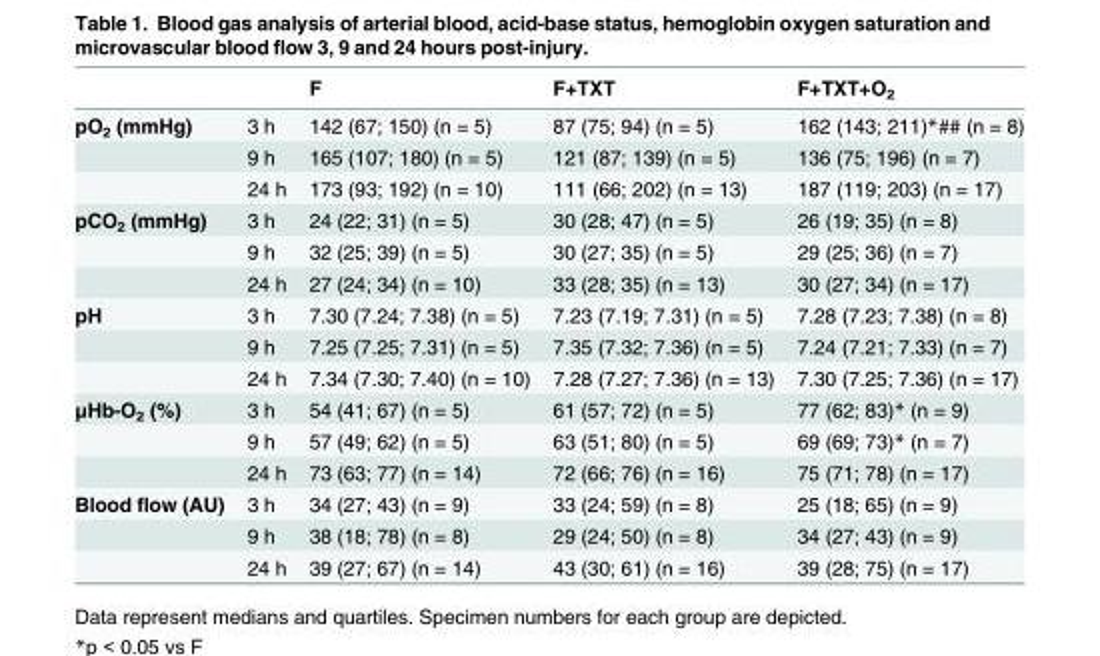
<table><thead><tr><td></td><td></td><td>F</td><td>F+TXT</td><td>F+TXT+O<sub>2</sub></td></tr></thead><tbody><tr><td rowspan="3">pO<sub>2</sub> (mmHg)</td><td>3 h</td><td>142 (67; 150) (n = 5)</td><td>87 (75; 94) (n = 5)</td><td>162 (143; 211)*## (n = 8)</td></tr><tr><td>9 h</td><td>165 (107; 180) (n = 5)</td><td>121 (87; 139) (n = 5)</td><td>136 (75; 196) (n = 7)</td></tr><tr><td>24 h</td><td>173 (93; 192) (n = 10)</td><td>111 (66; 202) (n = 13)</td><td>187 (119; 203) (n = 17)</td></tr><tr><td rowspan="3">pCO<sub>2</sub> (mmHg)</td><td>3 h</td><td>24 (22; 31) (n = 5)</td><td>30 (28; 47) (n = 5)</td><td>26 (19; 35) (n = 8)</td></tr><tr><td>9 h</td><td>32 (25; 39) (n = 5)</td><td>30 (27; 35) (n = 5)</td><td>29 (25; 36) (n = 7)</td></tr><tr><td>24 h</td><td>27 (24; 34) (n = 10)</td><td>33 (28; 35) (n = 13)</td><td>30 (27; 34) (n = 17)</td></tr><tr><td rowspan="3">pH</td><td>3 h</td><td>7.30 (7.24; 7.38) (n = 5)</td><td>7.23 (7.19; 7.31) (n = 5)</td><td>7.28 (7.23; 7.38) (n = 8)</td></tr><tr><td>9 h</td><td>7.25 (7.25; 7.31) (n = 5)</td><td>7.35 (7.32; 7.36) (n = 5)</td><td>7.24 (7.21; 7.33) (n = 7)</td></tr><tr><td>24 h</td><td>7.34 (7.30; 7.40) (n = 10)</td><td>7.28 (7.27; 7.36) (n = 13)</td><td>7.30 (7.25; 7.36) (n = 17)</td></tr><tr><td rowspan="3">μHb-O<sub>2</sub> (%)</td><td>3 h</td><td>54 (41; 67) (n = 5)</td><td>61 (57; 72) (n = 5)</td><td>77 (62; 83)* (n = 9)</td></tr><tr><td>9 h</td><td>57 (49; 62) (n = 5)</td><td>63 (51; 80) (n = 5)</td><td>69 (69; 73)* (n = 7)</td></tr><tr><td>24 h</td><td>73 (63; 77) (n = 14)</td><td>72 (66; 76) (n = 16)</td><td>75 (71; 78) (n = 17)</td></tr><tr><td rowspan="3">Blood flow (AU)</td><td>3 h</td><td>34 (27; 43) (n = 9)</td><td>33 (24; 59) (n = 8)</td><td>25 (18; 65) (n = 9)</td></tr><tr><td>9 h</td><td>38 (18; 78) (n = 8)</td><td>29 (24; 50) (n = 8)</td><td>34 (27; 43) (n = 9)</td></tr><tr><td>24 h</td><td>39 (27; 67) (n = 14)</td><td>43 (30; 61) (n = 16)</td><td>39 (28; 75) (n = 17)</td></tr></tbody></table>